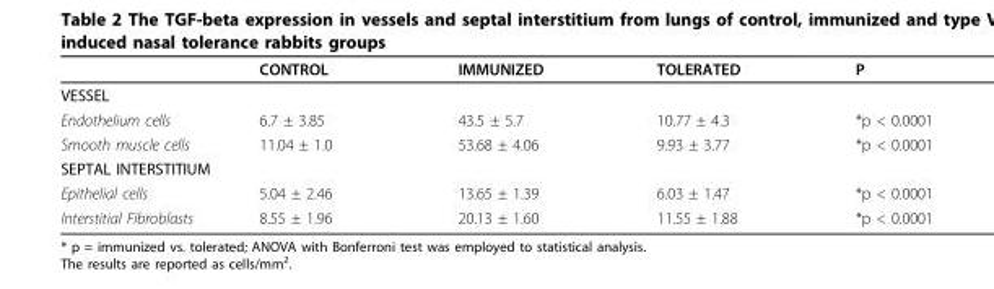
<table><thead><tr><td></td><td>CONTROL</td><td>IMMUNIZED</td><td>TOLERATED</td><td>P</td></tr></thead><tbody><tr><td colspan="5">VESSEL</td></tr><tr><td>Endothelium cells</td><td>6.7 ± 3.85</td><td>43.5 ± 5.7</td><td>10.77 ± 4.3</td><td>*p &lt; 0.0001</td></tr><tr><td>Smooth muscle cells</td><td>11.04 ± 1.0</td><td>53.68 ± 4.06</td><td>9.93 ± 3.77</td><td>*p &lt; 0.0001</td></tr><tr><td colspan="5">SEPTAL INTERSTITIUM</td></tr><tr><td>Epithelial cells</td><td>5.04 ± 2.46</td><td>13.65 ± 1.39</td><td>6.03 ± 1.47</td><td>*p &lt; 0.0001</td></tr><tr><td>Interstitial Fibroblasts</td><td>8.55 ± 1.96</td><td>20.13 ± 1.60</td><td>11.55 ± 1.88</td><td>*p &lt; 0.0001</td></tr></tbody></table>